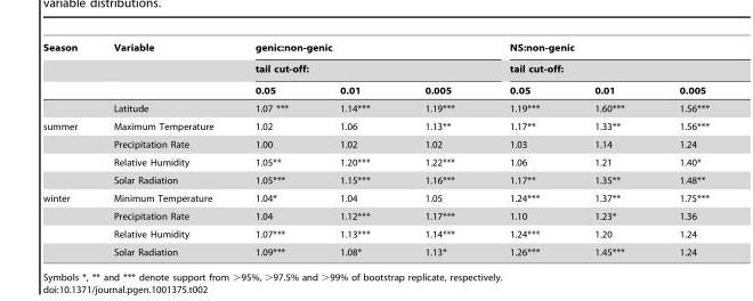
<table><thead><tr><td rowspan="4">Season</td><td rowspan="4">Variable Latitude</td><td rowspan="2" colspan="3">genic:non-genic tail cut-off:</td><td rowspan="2" colspan="3">NS:non-genic tail cut-off:</td></tr><tr></tr><tr><td rowspan="2">0.05 1.07 ***</td><td rowspan="2">0.01 1.14***</td><td rowspan="2">0.005 1.19***</td><td rowspan="2">0.05 1.19***</td><td rowspan="2">0.01 1.60***</td><td rowspan="2">0.005 1.56***</td></tr><tr></tr></thead><tbody><tr><td rowspan="4">summer</td><td>Maximum Temperature</td><td>1.02</td><td>1.06</td><td>1.13**</td><td>1.17**</td><td>1.33**</td><td>1.56***</td></tr><tr><td>Precipitation Rate</td><td>1.00</td><td>1.02</td><td>1.02</td><td>1.03</td><td>1.14</td><td>1.24</td></tr><tr><td>Relative Humidity</td><td>1.05**</td><td>1.20***</td><td>1.22***</td><td>1.06</td><td>1.21</td><td>1.40*</td></tr><tr><td>Solar Radiation</td><td>1.05***</td><td>1.15***</td><td>1.16***</td><td>1.17**</td><td>1.35**</td><td>1.48**</td></tr><tr><td rowspan="4">winter</td><td>Minimum Temperature</td><td>1.04*</td><td>1.04</td><td>1.05</td><td>1.24***</td><td>1.37**</td><td>1.75***</td></tr><tr><td>Precipitation Rate</td><td>1.04</td><td>1.12***</td><td>1.17***</td><td>1.10</td><td>1.23*</td><td>1.36</td></tr><tr><td>Relative Humidity</td><td>1.07***</td><td>1.13***</td><td>1.14***</td><td>1.24***</td><td>1.20</td><td>1.24</td></tr><tr><td>Solar Radiation</td><td>1.09***</td><td>1.08*</td><td>1.13*</td><td>1.26***</td><td>1.45***</td><td>1.24</td></tr></tbody></table>